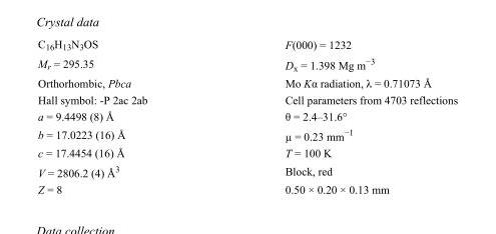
<table><tbody><tr><td>C<sub>16</sub>H<sub>13</sub>N<sub>3</sub>OS</td><td>F(000) = 1232</td></tr><tr><td>M<sub>r</sub> = 295.35</td><td>D<sub>x</sub> = 1.398 Mg m<sup>−3</sup></td></tr><tr><td>Orthorhombic, Pbca</td><td>Mo Kα radiation, λ = 0.71073 Å</td></tr><tr><td>Hall symbol: -P 2ac 2ab</td><td>Cell parameters from 4703 reflections</td></tr><tr><td>a = 9.4498 (8) Å</td><td>θ = 2.4–31.6°</td></tr><tr><td>b = 17.0223 (16) Å</td><td>µ = 0.23 mm<sup>−1</sup></td></tr><tr><td>c = 17.4454 (16) Å</td><td>T = 100 K</td></tr><tr><td>V = 2806.2 (4) Å<sup>3</sup></td><td>Block, red</td></tr><tr><td>Z = 8</td><td>0.50 × 0.20 × 0.13 mm</td></tr></tbody></table>